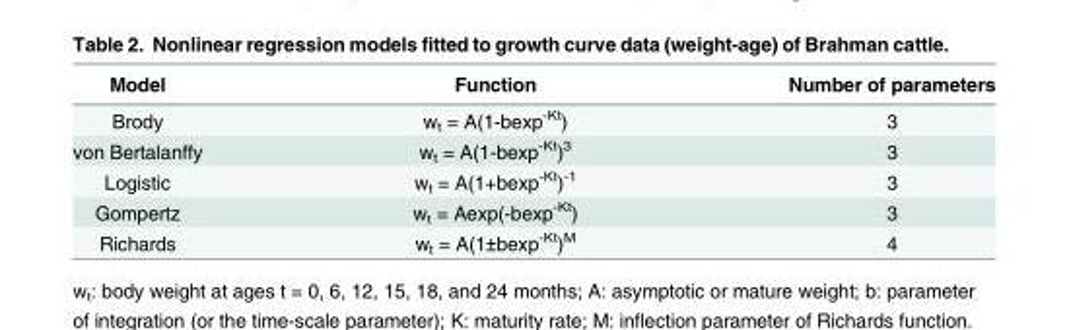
<table><thead><tr><td>Model</td><td>Function</td><td>Number of parameters</td></tr></thead><tbody><tr><td>Brody</td><td>w<sub>t</sub> = A(1-bexp<sup>-Kt</sup>)</td><td>3</td></tr><tr><td>von Bertalanffy</td><td>w<sub>t</sub> = A(1-bexp<sup>-Kt</sup>)<sup>3</sup></td><td>3</td></tr><tr><td>Logistic</td><td>w<sub>t</sub> = A(1+bexp<sup>-Kt</sup>)<sup>-1</sup></td><td>3</td></tr><tr><td>Gompertz</td><td>w<sub>t</sub> = Aexp(-bexp<sup>-Kt</sup>)</td><td>3</td></tr><tr><td>Richards</td><td>w<sub>t</sub> = A(1±bexp<sup>-Kt</sup>)<sup>M</sup></td><td>4</td></tr></tbody></table>